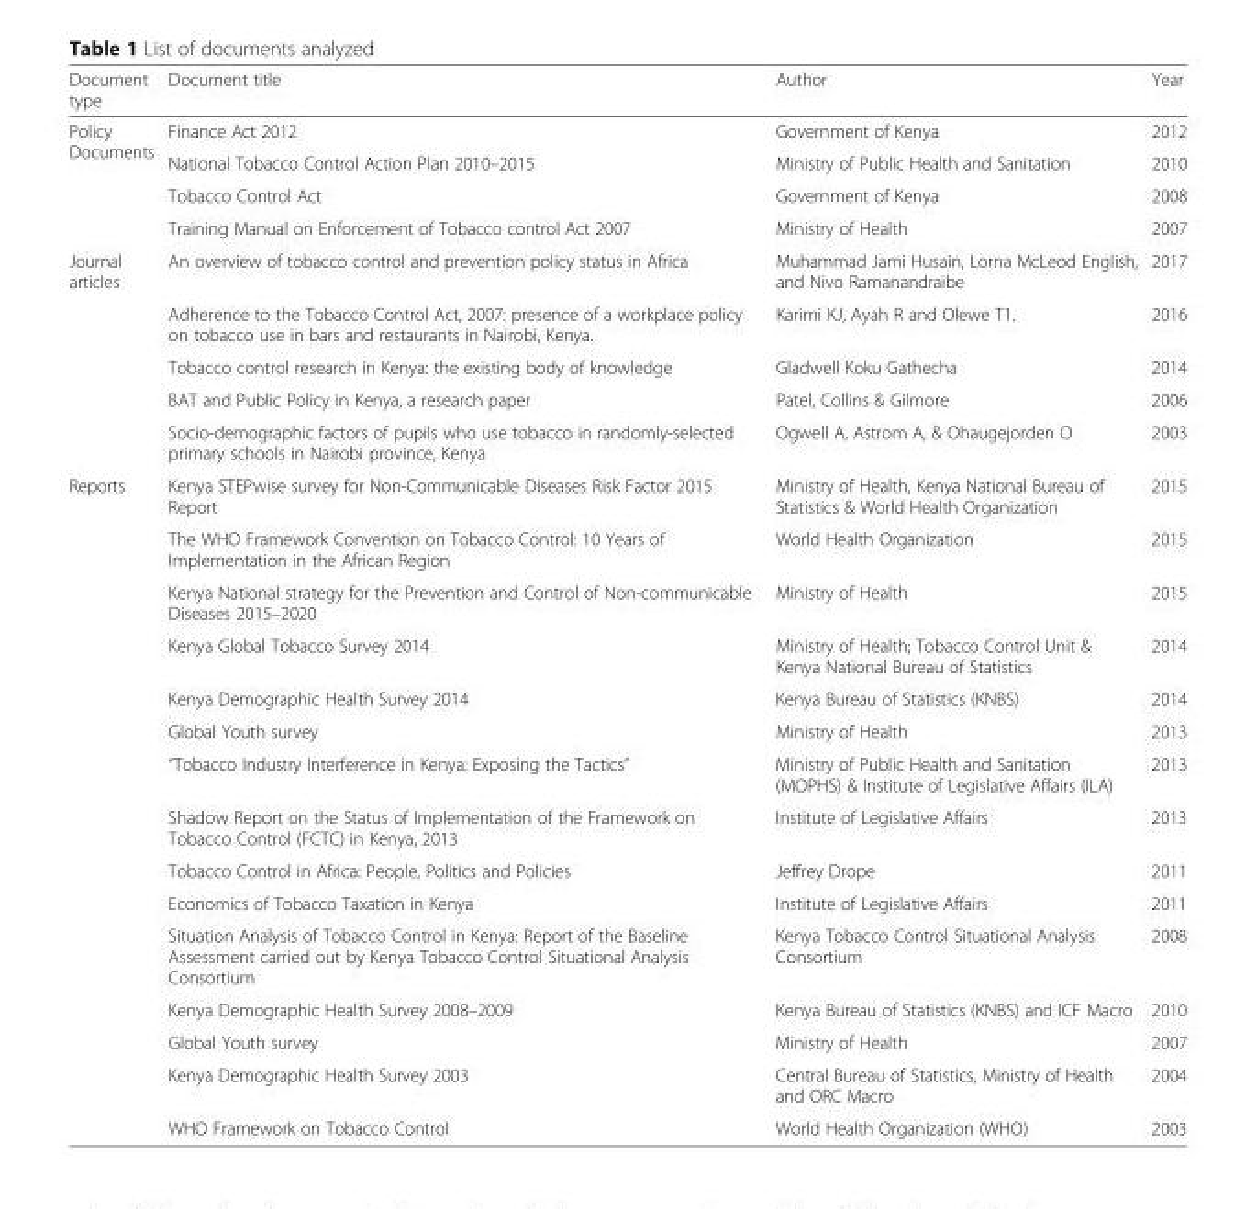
<table><thead><tr><td>Document type</td><td>Document title</td><td>Author</td><td>Year</td></tr></thead><tbody><tr><td rowspan="4">Policy Documents</td><td>Finance Act 2012</td><td>Government of Kenya</td><td>2012</td></tr><tr><td>National Tobacco Control Action Plan 2010–2015</td><td>Ministry of Public Health and Sanitation</td><td>2010</td></tr><tr><td>Tobacco Control Act</td><td>Government of Kenya</td><td>2008</td></tr><tr><td>Training Manual on Enforcement of Tobacco control Act 2007</td><td>Ministry of Health</td><td>2007</td></tr><tr><td rowspan="5">Journal articles</td><td>An overview of tobacco control and prevention policy status in Africa</td><td>Muhammad Jami Husain, Lorna McLeod English, and Nivo Ramanandraibe</td><td>2017</td></tr><tr><td>Adherence to the Tobacco Control Act, 2007: presence of a workplace policy on tobacco use in bars and restaurants in Nairobi, Kenya.</td><td>Karimi KJ, Ayah R and Olewe T1.</td><td>2016</td></tr><tr><td>Tobacco control research in Kenya: the existing body of knowledge</td><td>Gladwell Koku Gathecha</td><td>2014</td></tr><tr><td>BAT and Public Policy in Kenya, a research paper</td><td>Patel, Collins &amp; Gilmore</td><td>2006</td></tr><tr><td>Socio-demographic factors of pupils who use tobacco in randomly-selected primary schools in Nairobi province, Kenya</td><td>Ogwell A, Astrom A, &amp; Ohaugejorden O</td><td>2003</td></tr><tr><td rowspan="15">Reports</td><td>Kenya STEPwise survey for Non-Communicable Diseases Risk Factor 2015 Report</td><td>Ministry of Health, Kenya National Bureau of Statistics &amp; World Health Organization</td><td>2015</td></tr><tr><td>The WHO Framework Convention on Tobacco Control: 10 Years of Implementation in the African Region</td><td>World Health Organization</td><td>2015</td></tr><tr><td>Kenya National strategy for the Prevention and Control of Non-communicable Diseases 2015–2020</td><td>Ministry of Health</td><td>2015</td></tr><tr><td>Kenya Global Tobacco Survey 2014</td><td>Ministry of Health; Tobacco Control Unit &amp; Kenya National Bureau of Statistics</td><td>2014</td></tr><tr><td>Kenya Demographic Health Survey 2014</td><td>Kenya Bureau of Statistics (KNBS)</td><td>2014</td></tr><tr><td>Global Youth survey</td><td>Ministry of Health</td><td>2013</td></tr><tr><td>“Tobacco Industry Interference in Kenya: Exposing the Tactics”</td><td>Ministry of Public Health and Sanitation (MOPHS) &amp; Institute of Legislative Affairs (ILA)</td><td>2013</td></tr><tr><td>Shadow Report on the Status of Implementation of the Framework on Tobacco Control (FCTC) in Kenya, 2013</td><td>Institute of Legislative Affairs</td><td>2013</td></tr><tr><td>Tobacco Control in Africa: People, Politics and Policies</td><td>Jeffrey Drope</td><td>2011</td></tr><tr><td>Economics of Tobacco Taxation in Kenya</td><td>Institute of Legislative Affairs</td><td>2011</td></tr><tr><td>Situation Analysis of Tobacco Control in Kenya: Report of the Baseline Assessment carried out by Kenya Tobacco Control Situational Analysis Consortium</td><td>Kenya Tobacco Control Situational Analysis Consortium</td><td>2008</td></tr><tr><td>Kenya Demographic Health Survey 2008–2009</td><td>Kenya Bureau of Statistics (KNBS) and ICF Macro</td><td>2010</td></tr><tr><td>Global Youth survey</td><td>Ministry of Health</td><td>2007</td></tr><tr><td>Kenya Demographic Health Survey 2003</td><td>Central Bureau of Statistics, Ministry of Health and ORC Macro</td><td>2004</td></tr><tr><td>WHO Framework on Tobacco Control</td><td>World Health Organization (WHO)</td><td>2003</td></tr></tbody></table>